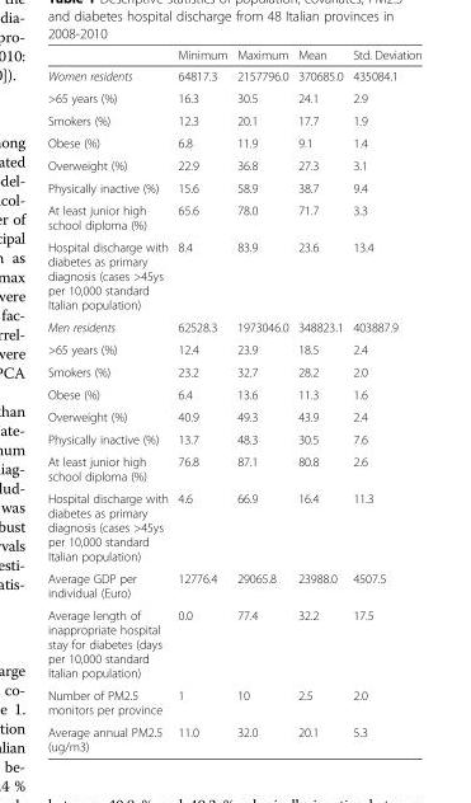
<table><thead><tr><td></td><td>Minimum</td><td>Maximum</td><td>Mean</td><td>Std. Deviation</td></tr></thead><tbody><tr><td>Women residents</td><td>64817.3</td><td>2157796.0</td><td>370685.0</td><td>435084.1</td></tr><tr><td>&gt;65 years (%)</td><td>16.3</td><td>30.5</td><td>24.1</td><td>2.9</td></tr><tr><td>Smokers (%)</td><td>12.3</td><td>20.1</td><td>17.7</td><td>1.9</td></tr><tr><td>Obese (%)</td><td>6.8</td><td>11.9</td><td>9.1</td><td>1.4</td></tr><tr><td>Overweight (%)</td><td>22.9</td><td>36.8</td><td>27.3</td><td>3.1</td></tr><tr><td>Physically inactive (%)</td><td>15.6</td><td>58.9</td><td>38.7</td><td>9.4</td></tr><tr><td>At least junior high school diploma (%)</td><td>65.6</td><td>78.0</td><td>71.7</td><td>3.3</td></tr><tr><td>Hospital discharge with diabetes as primary diagnosis (cases &gt;45ys per 10,000 standard Italian population)</td><td>8.4</td><td>83.9</td><td>23.6</td><td>13.4</td></tr><tr><td>Men residents</td><td>62528.3</td><td>1973046.0</td><td>348823.1</td><td>403887.9</td></tr><tr><td>&gt;65 years (%)</td><td>12.4</td><td>23.9</td><td>18.5</td><td>2.4</td></tr><tr><td>Smokers (%)</td><td>23.2</td><td>32.7</td><td>28.2</td><td>2.0</td></tr><tr><td>Obese (%)</td><td>6.4</td><td>13.6</td><td>11.3</td><td>1.6</td></tr><tr><td>Overweight (%)</td><td>40.9</td><td>49.3</td><td>43.9</td><td>2.4</td></tr><tr><td>Physically inactive (%)</td><td>13.7</td><td>48.3</td><td>30.5</td><td>7.6</td></tr><tr><td>At least junior high school diploma (%)</td><td>76.8</td><td>87.1</td><td>80.8</td><td>2.6</td></tr><tr><td>Hospital discharge with diabetes as primary diagnosis (cases &gt;45ys per 10,000 standard Italian population)</td><td>4.6</td><td>66.9</td><td>16.4</td><td>11.3</td></tr><tr><td>Average GDP per individual (Euro)</td><td>12776.4</td><td>29065.8</td><td>23988.0</td><td>4507.5</td></tr><tr><td>Average length of inappropriate hospital stay for diabetes (days per 10,000 standard Italian population)</td><td>0.0</td><td>77.4</td><td>32.2</td><td>17.5</td></tr><tr><td>Number of PM2.5 monitors per province</td><td>1</td><td>10</td><td>2.5</td><td>2.0</td></tr><tr><td>Average annual PM2.5 (ug/m3)</td><td>11.0</td><td>32.0</td><td>20.1</td><td>5.3</td></tr></tbody></table>